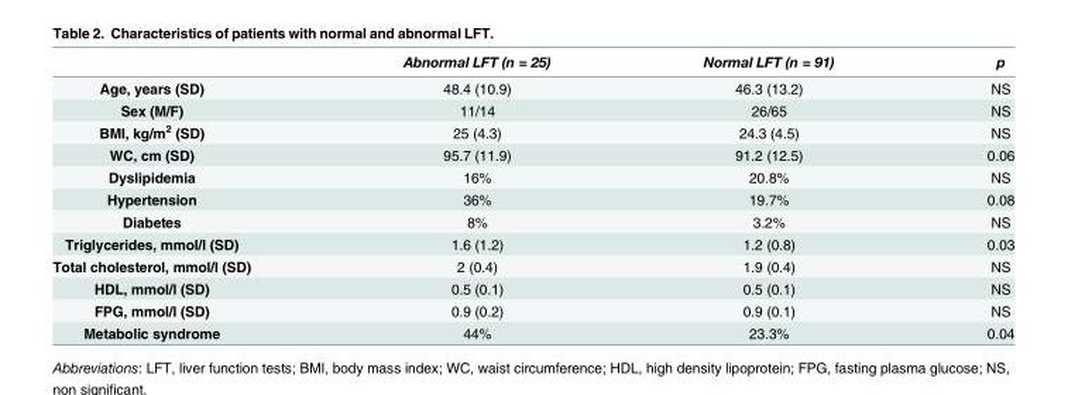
<table><thead><tr><td></td><td>Abnormal LFT (n = 25)</td><td>Normal LFT (n = 91)</td><td>p</td></tr></thead><tbody><tr><td>Age, years (SD)</td><td>48.4 (10.9)</td><td>46.3 (13.2)</td><td>NS</td></tr><tr><td>Sex (M/F)</td><td>11/14</td><td>26/65</td><td>NS</td></tr><tr><td>BMI, kg/m<sup>2</sup> (SD)</td><td>25 (4.3)</td><td>24.3 (4.5)</td><td>NS</td></tr><tr><td>WC, cm (SD)</td><td>95.7 (11.9)</td><td>91.2 (12.5)</td><td>0.06</td></tr><tr><td>Dyslipidemia</td><td>16%</td><td>20.8%</td><td>NS</td></tr><tr><td>Hypertension</td><td>36%</td><td>19.7%</td><td>0.08</td></tr><tr><td>Diabetes</td><td>8%</td><td>3.2%</td><td>NS</td></tr><tr><td>Triglycerides, mmol/l (SD)</td><td>1.6 (1.2)</td><td>1.2 (0.8)</td><td>0.03</td></tr><tr><td>Total cholesterol, mmol/l (SD)</td><td>2 (0.4)</td><td>1.9 (0.4)</td><td>NS</td></tr><tr><td>HDL, mmol/l (SD)</td><td>0.5 (0.1)</td><td>0.5 (0.1)</td><td>NS</td></tr><tr><td>FPG, mmol/l (SD)</td><td>0.9 (0.2)</td><td>0.9 (0.1)</td><td>NS</td></tr><tr><td>Metabolic syndrome</td><td>44%</td><td>23.3%</td><td>0.04</td></tr></tbody></table>